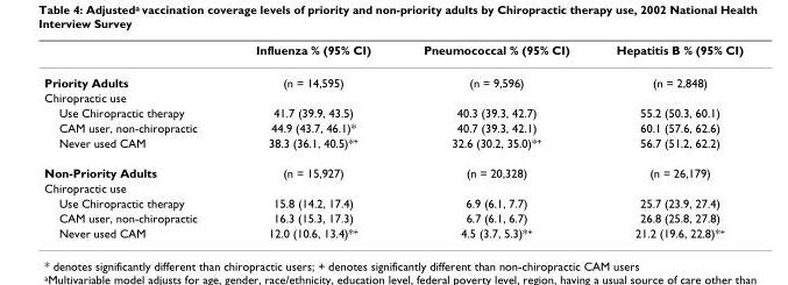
<table><thead><tr><td></td><td>Influenza % (95% CI)</td><td>Pneumococcal % (95% CI)</td><td>Hepatitis B % (95% CI)</td></tr></thead><tbody><tr><td>Priority Adults</td><td>(n = 14,595)</td><td>(n = 9,596)</td><td>(n = 2,848)</td></tr><tr><td colspan="4">Chiropractic use</td></tr><tr><td>Use Chiropractic therapy</td><td>41.7 (39.9, 43.5)</td><td>40.3 (39.3, 42.7)</td><td>55.2 (50.3, 60.1)</td></tr><tr><td>CAM user, non-chiropractic</td><td>44.9 (43.7, 46.1)*</td><td>40.7 (39.3, 42.1)</td><td>60.1 (57.6, 62.6)</td></tr><tr><td>Never used CAM</td><td>38.3 (36.1, 40.5)*<sup>+</sup></td><td>32.6 (30.2, 35.0)*<sup>+</sup></td><td>56.7 (51.2, 62.2)</td></tr><tr><td>Non-Priority Adults</td><td>(n = 15,927)</td><td>(n = 20,328)</td><td>(n = 26,179)</td></tr><tr><td colspan="4">Chiropractic use</td></tr><tr><td>Use Chiropractic therapy</td><td>15.8 (14.2, 17.4)</td><td>6.9 (6.1, 7.7)</td><td>25.7 (23.9, 27.4)</td></tr><tr><td>CAM user, non-chiropractic</td><td>16.3 (15.3, 17.3)</td><td>6.7 (6.1, 6.7)</td><td>26.8 (25.8, 27.8)</td></tr><tr><td>Never used CAM</td><td>12.0 (10.6, 13.4)*<sup>+</sup></td><td>4.5 (3.7, 5.3)*<sup>+</sup></td><td>21.2 (19.6, 22.8)*<sup>+</sup></td></tr></tbody></table>